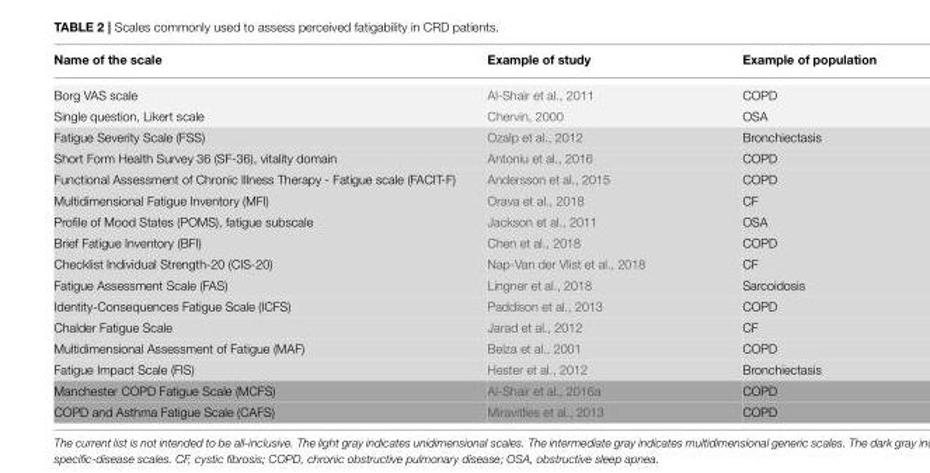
<table><thead><tr><td>Name of the scale</td><td>Example of study</td><td>Example of population</td></tr></thead><tbody><tr><td>Borg VAS scale</td><td>Al-Shair et al., 2011</td><td>COPD</td></tr><tr><td>Single question, Likert scale</td><td>Chervin, 2000</td><td>OSA</td></tr><tr><td>Fatigue Severity Scale (FSS)</td><td>Ozalp et al., 2012</td><td>Bronchiectasis</td></tr><tr><td>Short Form Health Survey 36 (SF-36), vitality domain</td><td>Antoniu et al., 2016</td><td>COPD</td></tr><tr><td>Functional Assessment of Chronic Illness Therapy - Fatigue scale (FACIT-F)</td><td>Andersson et al., 2015</td><td>COPD</td></tr><tr><td>Multidimensional Fatigue Inventory (MFI)</td><td>Orava et al., 2018</td><td>CF</td></tr><tr><td>Profile of Mood States (POMS), fatigue subscale</td><td>Jackson et al., 2011</td><td>OSA</td></tr><tr><td>Brief Fatigue Inventory (BFI)</td><td>Chen et al., 2018</td><td>COPD</td></tr><tr><td>Checklist Individual Strength-20 (CIS-20)</td><td>Nap-Van der Vlist et al., 2018</td><td>CF</td></tr><tr><td>Fatigue Assessment Scale (FAS)</td><td>Lingner et al., 2018</td><td>Sarcoidosis</td></tr><tr><td>Identity-Consequences Fatigue Scale (ICFS)</td><td>Paddison et al., 2013</td><td>COPD</td></tr><tr><td>Chalder Fatigue Scale</td><td>Jarad et al., 2012</td><td>CF</td></tr><tr><td>Multidimensional Assessment of Fatigue (MAF)</td><td>Belza et al., 2001</td><td>COPD</td></tr><tr><td>Fatigue Impact Scale (FIS)</td><td>Hester et al., 2012</td><td>Bronchiectasis</td></tr><tr><td>Manchester COPD Fatigue Scale (MCFS)</td><td>Al-Shair et al., 2016a</td><td>COPD</td></tr><tr><td>COPD and Asthma Fatigue Scale (CAFS)</td><td>Miravitlles et al., 2013</td><td>COPD</td></tr></tbody></table>